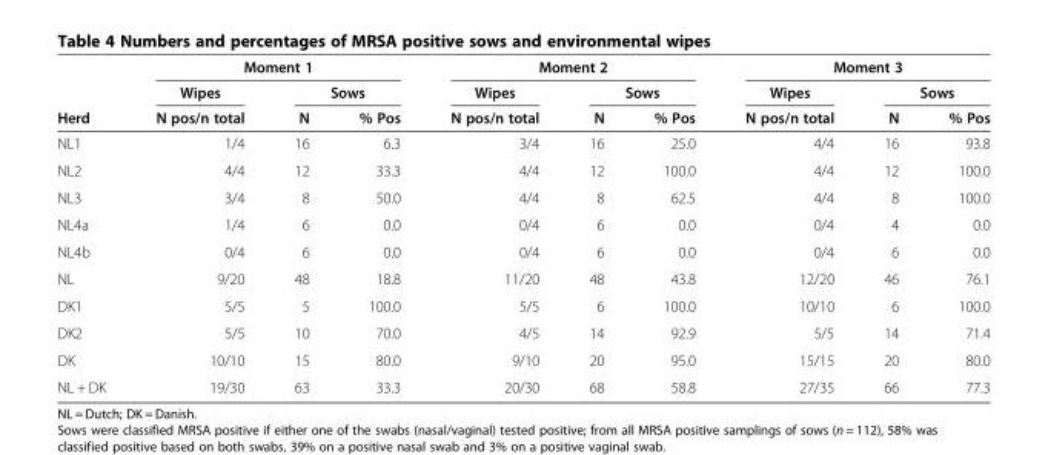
<table><thead><tr><td rowspan="3">Herd</td><td colspan="3">Moment 1</td><td colspan="3">Moment 2</td><td colspan="3">Moment 3</td></tr><tr><td rowspan="2">Wipes N pos/n total</td><td colspan="2">Sows</td><td rowspan="2">Wipes N pos/n total</td><td colspan="2">Sows</td><td rowspan="2">Wipes N pos/n total</td><td colspan="2">Sows</td></tr><tr><td>N</td><td>% Pos</td><td>N</td><td>% Pos</td><td>N</td><td>% Pos</td></tr></thead><tbody><tr><td>NL1</td><td>1/4</td><td>16</td><td>6.3</td><td>3/4</td><td>16</td><td>25.0</td><td>4/4</td><td>16</td><td>93.8</td></tr><tr><td>NL2</td><td>4/4</td><td>12</td><td>33.3</td><td>4/4</td><td>12</td><td>100.0</td><td>4/4</td><td>12</td><td>100.0</td></tr><tr><td>NL3</td><td>3/4</td><td>8</td><td>50.0</td><td>4/4</td><td>8</td><td>62.5</td><td>4/4</td><td>8</td><td>100.0</td></tr><tr><td>NL4a</td><td>1/4</td><td>6</td><td>0.0</td><td>0/4</td><td>6</td><td>0.0</td><td>0/4</td><td>4</td><td>0.0</td></tr><tr><td>NL4b</td><td>0/4</td><td>6</td><td>0.0</td><td>0/4</td><td>6</td><td>0.0</td><td>0/4</td><td>6</td><td>0.0</td></tr><tr><td>NL</td><td>9/20</td><td>48</td><td>18.8</td><td>11/20</td><td>48</td><td>43.8</td><td>12/20</td><td>46</td><td>76.1</td></tr><tr><td>DK1</td><td>5/5</td><td>5</td><td>100.0</td><td>5/5</td><td>6</td><td>100.0</td><td>10/10</td><td>6</td><td>100.0</td></tr><tr><td>DK2</td><td>5/5</td><td>10</td><td>70.0</td><td>4/5</td><td>14</td><td>92.9</td><td>5/5</td><td>14</td><td>71.4</td></tr><tr><td>DK</td><td>10/10</td><td>15</td><td>80.0</td><td>9/10</td><td>20</td><td>95.0</td><td>15/15</td><td>20</td><td>80.0</td></tr><tr><td>NL + DK</td><td>19/30</td><td>63</td><td>33.3</td><td>20/30</td><td>68</td><td>58.8</td><td>27/35</td><td>66</td><td>77.3</td></tr></tbody></table>